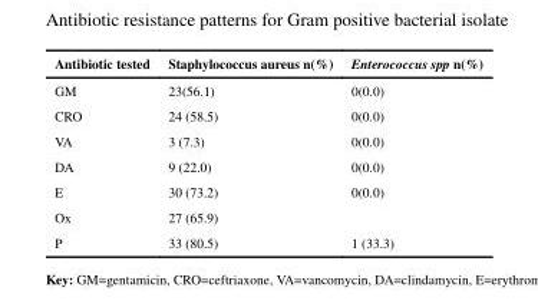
<table><thead><tr><td>Antibiotic tested</td><td>Staphylococcus aureus n(%)</td><td>Enterococcus spp n(%)</td></tr></thead><tbody><tr><td>GM</td><td>23(56.1)</td><td>0(0.0)</td></tr><tr><td>CRO</td><td>24 (58.5)</td><td>0(0.0)</td></tr><tr><td>VA</td><td>3 (7.3)</td><td>0(0.0)</td></tr><tr><td>DA</td><td>9 (22.0)</td><td>0(0.0)</td></tr><tr><td>E</td><td>30 (73.2)</td><td>0(0.0)</td></tr><tr><td>Ox</td><td>27 (65.9)</td><td></td></tr><tr><td>P</td><td>33 (80.5)</td><td>1 (33.3)</td></tr></tbody></table>